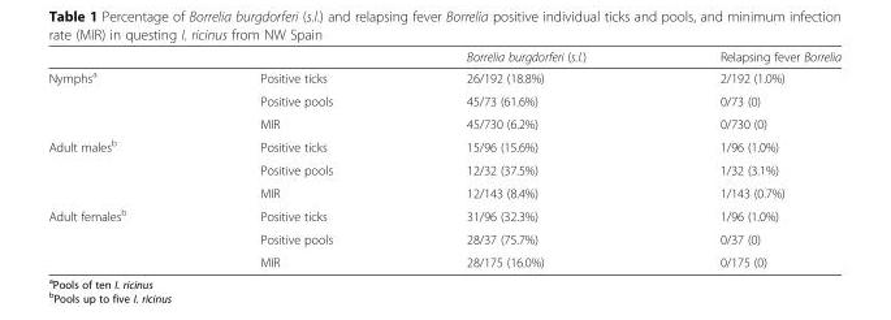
<table><thead><tr><td></td><td></td><td>Borrelia burgdorferi (s.l.)</td><td>Relapsing fever Borrelia</td></tr></thead><tbody><tr><td rowspan="3">Nymphs<sup>a</sup></td><td>Positive ticks</td><td>26/192 (18.8%)</td><td>2/192 (1.0%)</td></tr><tr><td>Positive pools</td><td>45/73 (61.6%)</td><td>0/73 (0)</td></tr><tr><td>MIR</td><td>45/730 (6.2%)</td><td>0/730 (0)</td></tr><tr><td rowspan="3">Adult males<sup>b</sup></td><td>Positive ticks</td><td>15/96 (15.6%)</td><td>1/96 (1.0%)</td></tr><tr><td>Positive pools</td><td>12/32 (37.5%)</td><td>1/32 (3.1%)</td></tr><tr><td>MIR</td><td>12/143 (8.4%)</td><td>1/143 (0.7%)</td></tr><tr><td rowspan="3">Adult females<sup>b</sup></td><td>Positive ticks</td><td>31/96 (32.3%)</td><td>1/96 (1.0%)</td></tr><tr><td>Positive pools</td><td>28/37 (75.7%)</td><td>0/37 (0)</td></tr><tr><td>MIR</td><td>28/175 (16.0%)</td><td>0/175 (0)</td></tr></tbody></table>